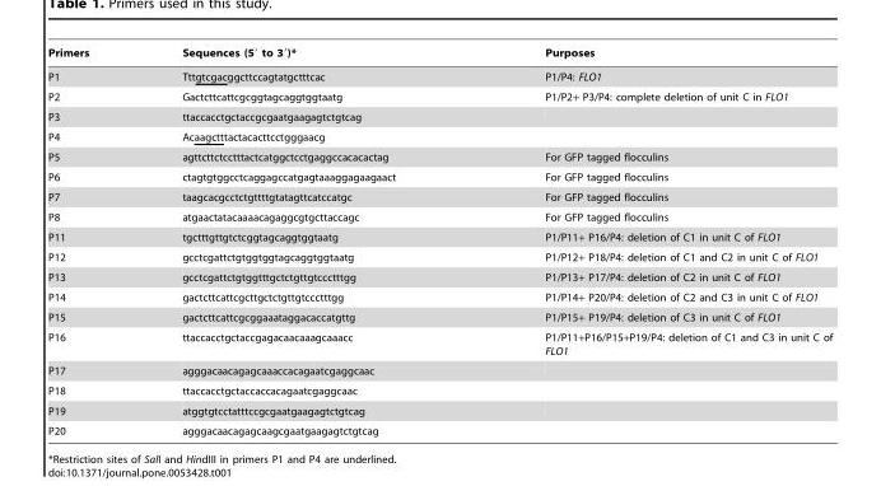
<table><thead><tr><td>Primers</td><td>Sequences (5′ to 3′)*</td><td>Purposes</td></tr></thead><tbody><tr><td>P1</td><td>Tttgtcgacggcttccagtatgctttcac</td><td>P1/P4: FLO1</td></tr><tr><td>P2</td><td>Gactcttcattcgcggtagcaggtggtaatg</td><td>P1/P2+ P3/P4: complete deletion of unit C in FLO1</td></tr><tr><td>P3</td><td>ttaccacctgctaccgcgaatgaagagtctgtcag</td><td></td></tr><tr><td>P4</td><td>Acaagctttactacacttcctgggaacg</td><td></td></tr><tr><td>P5</td><td>agttcttctcctttactcatggctcctgaggccacacactag</td><td>For GFP tagged flocculins</td></tr><tr><td>P6</td><td>ctagtgtggcctcaggagccatgagtaaaggagaagaact</td><td>For GFP tagged flocculins</td></tr><tr><td>P7</td><td>taagcacgcctctgttttgtatagttcatccatgc</td><td>For GFP tagged flocculins</td></tr><tr><td>P8</td><td>atgaactatacaaaacagaggcgtgcttaccagc</td><td>For GFP tagged flocculins</td></tr><tr><td>P11</td><td>tgctttgttgtctcggtagcaggtggtaatg</td><td>P1/P11+ P16/P4: deletion of C1 in unit C of FLO1</td></tr><tr><td>P12</td><td>gcctcgattctgtggtggtagcaggtggtaatg</td><td>P1/P12+ P18/P4: deletion of C1 and C2 in unit C of FLO1</td></tr><tr><td>P13</td><td>gcctcgattctgtggtttgctctgttgtccctttgg</td><td>P1/P13+ P17/P4: deletion of C2 in unit C of FLO1</td></tr><tr><td>P14</td><td>gactcttcattcgcttgctctgttgtccctttgg</td><td>P1/P14+ P20/P4: deletion of C2 and C3 in unit C of FLO1</td></tr><tr><td>P15</td><td>gactcttcattcgcggaaataggacaccatgttg</td><td>P1/P15+ P19/P4: deletion of C3 in unit C of FLO1</td></tr><tr><td>P16</td><td>ttaccacctgctaccgagacaacaaagcaaacc</td><td>P1/P11+P16/P15+P19/P4: deletion of C1 and C3 in unit C of FLO1</td></tr><tr><td>P17</td><td>agggacaacagagcaaaccacagaatcgaggcaac</td><td></td></tr><tr><td>P18</td><td>ttaccacctgctaccaccacagaatcgaggcaac</td><td></td></tr><tr><td>P19</td><td>atggtgtcctatttccgcgaatgaagagtctgtcag</td><td></td></tr><tr><td>P20</td><td>agggacaacagagcaagcgaatgaagagtctgtcag</td><td></td></tr></tbody></table>